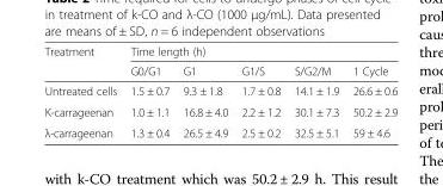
<table><thead><tr><td rowspan="2">Treatment</td><td colspan="5">Time length (h)</td></tr><tr><td>G0/G1</td><td>G1</td><td>G1/S</td><td>S/G2/M</td><td>1 Cycle</td></tr></thead><tbody><tr><td>Untreated cells</td><td>1.5 ± 0.7</td><td>9.3 ± 1.8</td><td>1.7 ± 0.8</td><td>14.1 ± 1.9</td><td>26.6 ± 0.6</td></tr><tr><td>K-carrageenan</td><td>1.0 ± 1.1</td><td>16.8 ± 4.0</td><td>2.2 ± 1.2</td><td>30.1 ± 7.3</td><td>50.2 ± 2.9</td></tr><tr><td>λ-carrageenan</td><td>1.3 ± 0.4</td><td>26.5 ± 4.9</td><td>2.5 ± 0.2</td><td>32.5 ± 5.1</td><td>59 ± 4.6</td></tr></tbody></table>